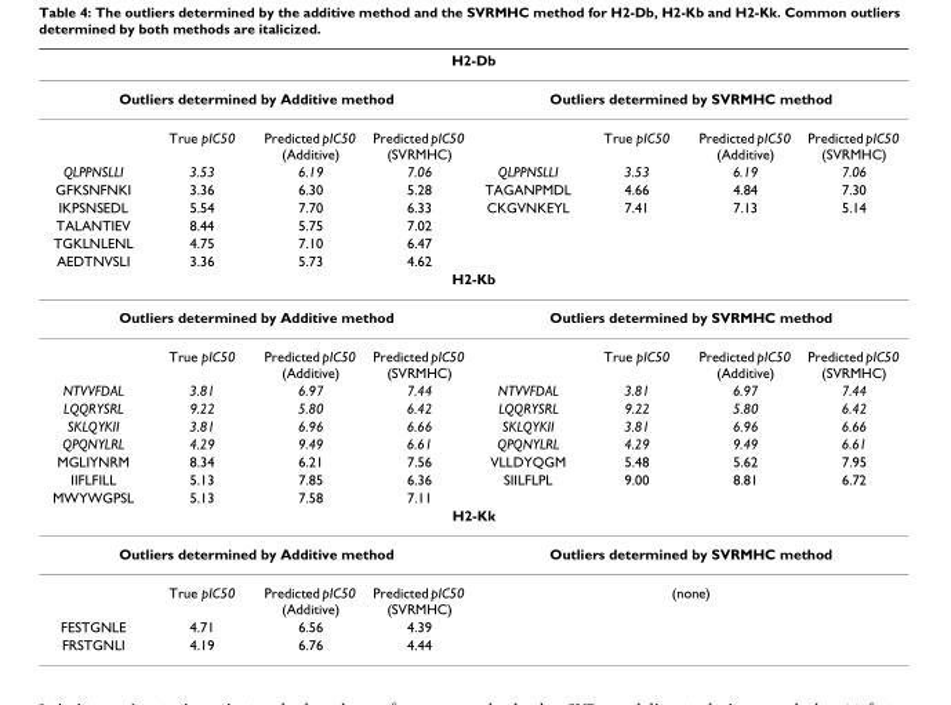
<table><thead><tr><td colspan="8">H2-Db</td></tr><tr><td colspan="4">Outliers determined by Additive method</td><td colspan="4">Outliers determined by SVRMHC method</td></tr><tr><td></td><td>True pIC50</td><td>Predicted pIC50 (Additive)</td><td>Predicted pIC50 (SVRMHC)</td><td></td><td>True pIC50</td><td>Predicted pIC50 (Additive)</td><td>Predicted pIC50 (SVRMHC)</td></tr></thead><tbody><tr><td>QLPPNSLLI</td><td>3.53</td><td>6.19</td><td>7.06</td><td>QLPPNSLLI</td><td>3.53</td><td>6.19</td><td>7.06</td></tr><tr><td>GFKSNFNKI</td><td>3.36</td><td>6.30</td><td>5.28</td><td>TAGANPMDL</td><td>4.66</td><td>4.84</td><td>7.30</td></tr><tr><td>IKPSNSEDL</td><td>5.54</td><td>7.70</td><td>6.33</td><td>CKGVNKEYL</td><td>7.41</td><td>7.13</td><td>5.14</td></tr><tr><td>TALANTIEV</td><td>8.44</td><td>5.75</td><td>7.02</td><td></td><td></td><td></td><td></td></tr><tr><td>TGKLNLENL</td><td>4.75</td><td>7.10</td><td>6.47</td><td></td><td></td><td></td><td></td></tr><tr><td>AEDTNVSLI</td><td>3.36</td><td>5.73</td><td>4.62</td><td></td><td></td><td></td><td></td></tr><tr><td colspan="8">H2-Kb</td></tr><tr><td colspan="4">Outliers determined by Additive method</td><td colspan="4">Outliers determined by SVRMHC method</td></tr><tr><td></td><td>True pIC50</td><td>Predicted pIC50 (Additive)</td><td>Predicted pIC50 (SVRMHC)</td><td></td><td>True pIC50</td><td>Predicted pIC50 (Additive)</td><td>Predicted pIC50 (SVRMHC)</td></tr><tr><td>NTVVFDAL</td><td>3.81</td><td>6.97</td><td>7.44</td><td>NTVVFDAL</td><td>3.81</td><td>6.97</td><td>7.44</td></tr><tr><td>LQQRYSRL</td><td>9.22</td><td>5.80</td><td>6.42</td><td>LQQRYSRL</td><td>9.22</td><td>5.80</td><td>6.42</td></tr><tr><td>SKLQYKII</td><td>3.81</td><td>6.96</td><td>6.66</td><td>SKLQYKII</td><td>3.81</td><td>6.96</td><td>6.66</td></tr><tr><td>QPQNYLRL</td><td>4.29</td><td>9.49</td><td>6.61</td><td>QPQNYLRL</td><td>4.29</td><td>9.49</td><td>6.61</td></tr><tr><td>MGLIYNRM</td><td>8.34</td><td>6.21</td><td>7.56</td><td>VLLDYQGM</td><td>5.48</td><td>5.62</td><td>7.95</td></tr><tr><td>IIFLFILL</td><td>5.13</td><td>7.85</td><td>6.36</td><td>SIILFLPL</td><td>9.00</td><td>8.81</td><td>6.72</td></tr><tr><td>MWYWGPSL</td><td>5.13</td><td>7.58</td><td>7.11</td><td></td><td></td><td></td><td></td></tr><tr><td colspan="8">H2-Kk</td></tr><tr><td colspan="4">Outliers determined by Additive method</td><td colspan="4">Outliers determined by SVRMHC method</td></tr><tr><td></td><td>True pIC50</td><td>Predicted pIC50 (Additive)</td><td>Predicted pIC50 (SVRMHC)</td><td colspan="4">(none)</td></tr><tr><td>FESTGNLE</td><td>4.71</td><td>6.56</td><td>4.39</td><td></td><td></td><td></td><td></td></tr><tr><td>FRSTGNLI</td><td>4.19</td><td>6.76</td><td>4.44</td><td></td><td></td><td></td><td></td></tr></tbody></table>